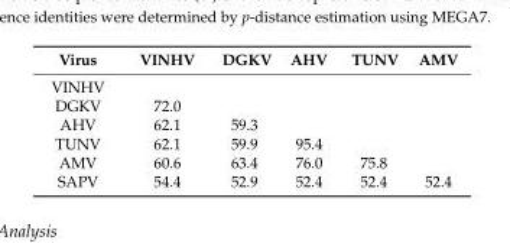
<table><thead><tr><td>Virus</td><td>VINHV</td><td>DGKV</td><td>AHV</td><td>TUNV</td><td>AMV</td></tr></thead><tbody><tr><td colspan="6">VINHV</td></tr><tr><td>DGKV</td><td>72.0</td><td></td><td></td><td></td><td></td></tr><tr><td>AHV</td><td>62.1</td><td>59.3</td><td></td><td></td><td></td></tr><tr><td>TUNV</td><td>62.1</td><td>59.9</td><td>95.4</td><td></td><td></td></tr><tr><td>AMV</td><td>60.6</td><td>63.4</td><td>76.0</td><td>75.8</td><td></td></tr><tr><td>SAPV</td><td>54.4</td><td>52.9</td><td>52.4</td><td>52.4</td><td>52.4</td></tr></tbody></table>